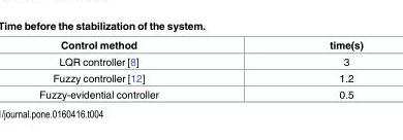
<table><thead><tr><td>Control method</td><td>time(s)</td></tr></thead><tbody><tr><td>LQR controller [8]</td><td>3</td></tr><tr><td>Fuzzy controller [12]</td><td>1.2</td></tr><tr><td>Fuzzy-evidential controller</td><td>0.5</td></tr></tbody></table>